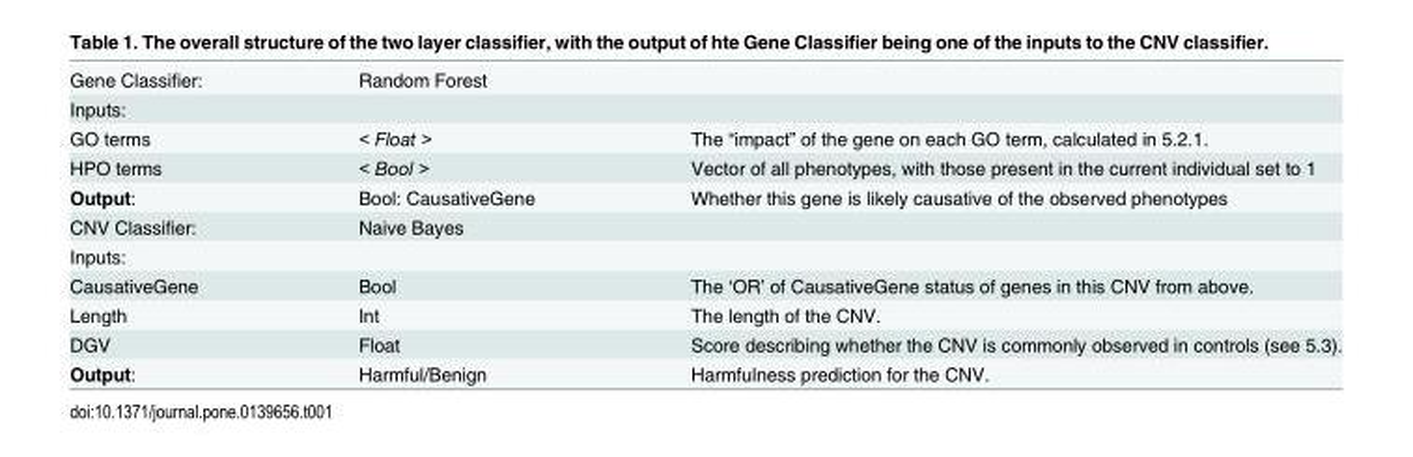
<table><tbody><tr><td>Gene Classifier:</td><td>Random Forest</td><td></td></tr><tr><td colspan="3">Inputs:</td></tr><tr><td>GO terms</td><td>&lt; Float &gt;</td><td>The “impact” of the gene on each GO term, calculated in 5.2.1.</td></tr><tr><td>HPO terms</td><td>&lt; Bool &gt;</td><td>Vector of all phenotypes, with those present in the current individual set to 1</td></tr><tr><td>Output:</td><td>Bool: CausativeGene</td><td>Whether this gene is likely causative of the observed phenotypes</td></tr><tr><td>CNV Classifier:</td><td>Naive Bayes</td><td></td></tr><tr><td colspan="3">Inputs:</td></tr><tr><td>CausativeGene</td><td>Bool</td><td>The ‘OR’ of CausativeGene status of genes in this CNV from above.</td></tr><tr><td>Length</td><td>Int</td><td>The length of the CNV.</td></tr><tr><td>DGV</td><td>Float</td><td>Score describing whether the CNV is commonly observed in controls (see 5.3).</td></tr><tr><td>Output:</td><td>Harmful/Benign</td><td>Harmfulness prediction for the CNV.</td></tr></tbody></table>